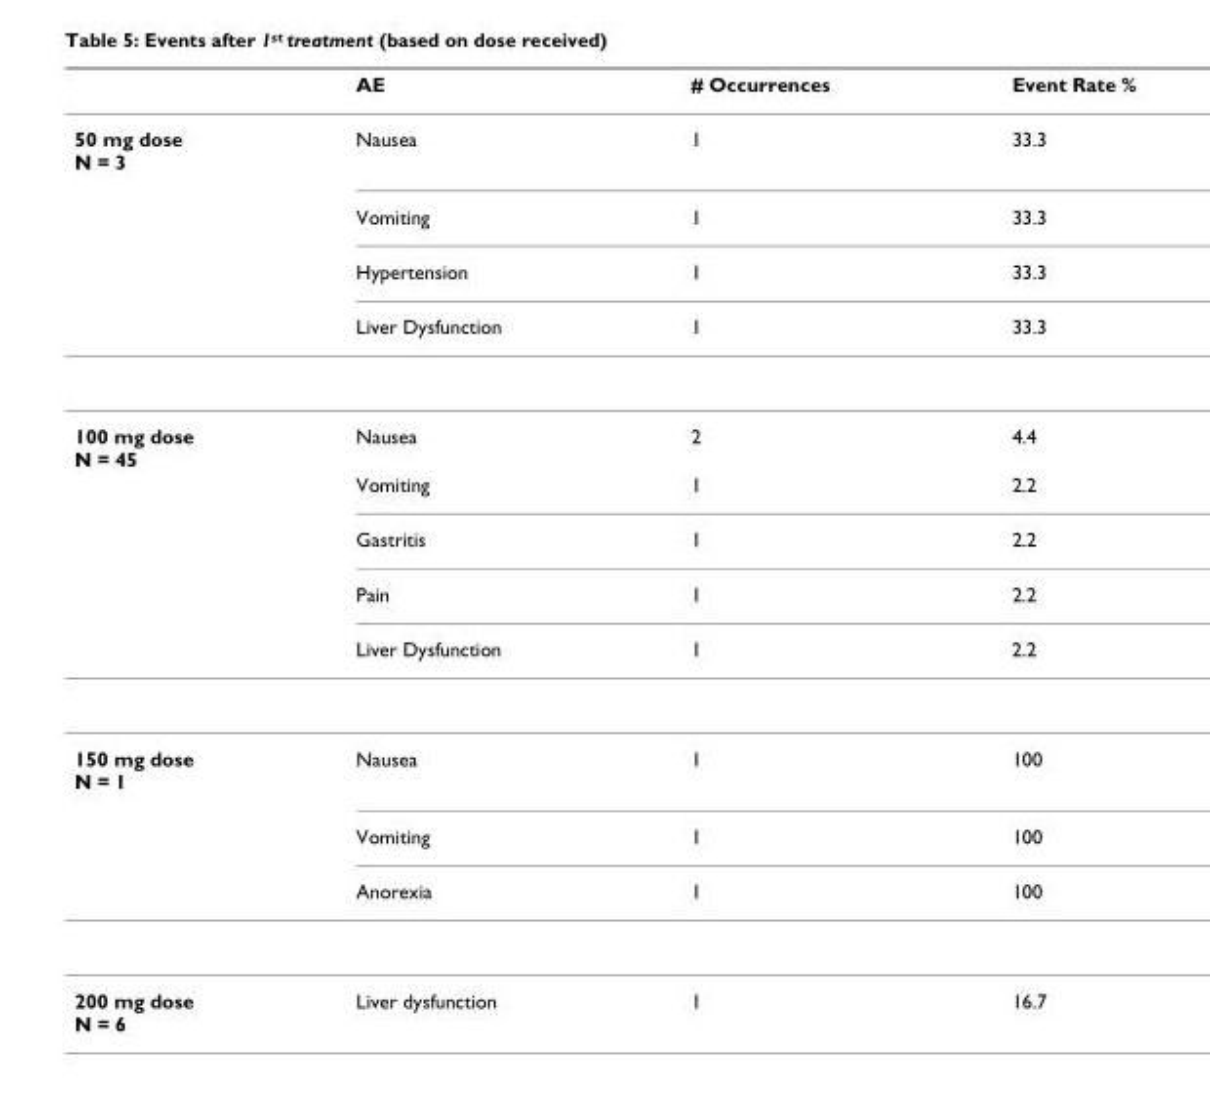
<table><thead><tr><td></td><td>AE</td><td># Occurrences</td><td>Event Rate %</td></tr></thead><tbody><tr><td rowspan="4">50 mg dose N = 3</td><td>Nausea</td><td>1</td><td>33.3</td></tr><tr><td>Vomiting</td><td>1</td><td>33.3</td></tr><tr><td>Hypertension</td><td>1</td><td>33.3</td></tr><tr><td>Liver Dysfunction</td><td>1</td><td>33.3</td></tr><tr><td rowspan="5">100 mg dose N = 45</td><td>Nausea</td><td>2</td><td>4.4</td></tr><tr><td>Vomiting</td><td>1</td><td>2.2</td></tr><tr><td>Gastritis</td><td>1</td><td>2.2</td></tr><tr><td>Pain</td><td>1</td><td>2.2</td></tr><tr><td>Liver Dysfunction</td><td>1</td><td>2.2</td></tr><tr><td rowspan="3">150 mg dose N = 1</td><td>Nausea</td><td>1</td><td>100</td></tr><tr><td>Vomiting</td><td>1</td><td>100</td></tr><tr><td>Anorexia</td><td>1</td><td>100</td></tr><tr><td>200 mg dose N = 6</td><td>Liver dysfunction</td><td>1</td><td>16.7</td></tr></tbody></table>